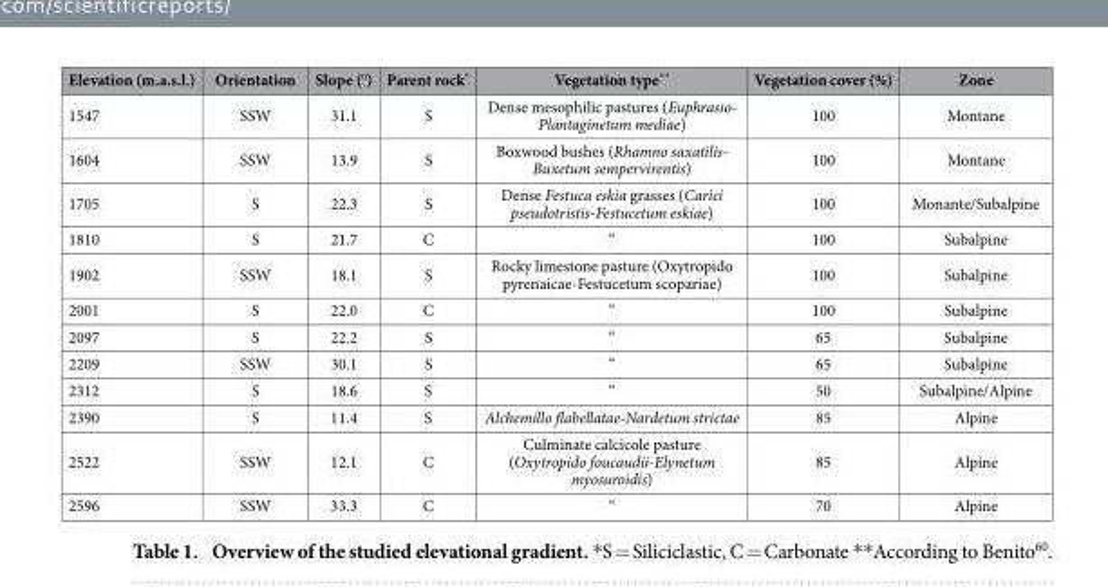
<table><thead><tr><td>Elevation (m.a.s.l.)</td><td>Orientation</td><td>Slope (°)</td><td>Parent rock*</td><td>Vegetation type**</td><td>Vegetation cover (%)</td><td>Zone</td></tr></thead><tbody><tr><td>1547</td><td>SSW</td><td>31.1</td><td>S</td><td>Dense mesophilic pastures (Euphrasio- Plantaginetum mediae)</td><td>100</td><td>Montane</td></tr><tr><td>1604</td><td>SSW</td><td>13.9</td><td>S</td><td>Boxwood bushes (Rhamno saxatilis- Buxetum sempervirentis)</td><td>100</td><td>Montane</td></tr><tr><td>1705</td><td>S</td><td>22.3</td><td>S</td><td>Dense Festuca eskia grasses (Carici pseudotristis-Festucetum eskiae)</td><td>100</td><td>Monante/Subalpine</td></tr><tr><td>1810</td><td>S</td><td>21.7</td><td>C</td><td>“</td><td>100</td><td>Subalpine</td></tr><tr><td>1902</td><td>SSW</td><td>18.1</td><td>S</td><td>Rocky limestone pasture (Oxytropido pyrenaicae-Festucetum scopariae)</td><td>100</td><td>Subalpine</td></tr><tr><td>2001</td><td>S</td><td>22.0</td><td>C</td><td>“</td><td>100</td><td>Subalpine</td></tr><tr><td>2097</td><td>S</td><td>22.2</td><td>S</td><td>“</td><td>65</td><td>Subalpine</td></tr><tr><td>2209</td><td>SSW</td><td>30.1</td><td>S</td><td>“</td><td>65</td><td>Subalpine</td></tr><tr><td>2312</td><td>S</td><td>18.6</td><td>S</td><td>“</td><td>50</td><td>Subalpine/Alpine</td></tr><tr><td>2390</td><td>S</td><td>11.4</td><td>S</td><td>Alchemillo flabellatae-Nardetum strictae</td><td>85</td><td>Alpine</td></tr><tr><td>2522</td><td>SSW</td><td>12.1</td><td>C</td><td>Culminate calcicole pasture (Oxytropido foucaudii-Elynetum myosuroidis)</td><td>85</td><td>Alpine</td></tr><tr><td>2596</td><td>SSW</td><td>33.3</td><td>C</td><td>“</td><td>70</td><td>Alpine</td></tr></tbody></table>